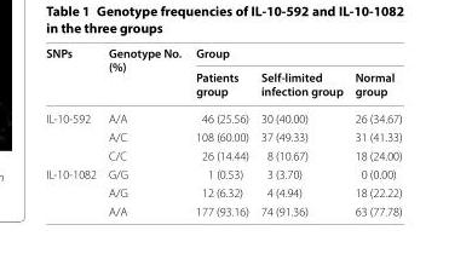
<table><thead><tr><td rowspan="2">SNPs</td><td rowspan="2">Genotype No. (%)</td><td colspan="3">Group</td></tr><tr><td>Patients group</td><td>Self‑limited infection group</td><td>Normal group</td></tr></thead><tbody><tr><td rowspan="3">IL-10-592</td><td>A/A</td><td>46 (25.56)</td><td>30 (40.00)</td><td>26 (34.67)</td></tr><tr><td>A/C</td><td>108 (60.00)</td><td>37 (49.33)</td><td>31 (41.33)</td></tr><tr><td>C/C</td><td>26 (14.44)</td><td>8 (10.67)</td><td>18 (24.00)</td></tr><tr><td rowspan="3">IL-10-1082</td><td>G/G</td><td>1 (0.53)</td><td>3 (3.70)</td><td>0 (0.00)</td></tr><tr><td>A/G</td><td>12 (6.32)</td><td>4 (4.94)</td><td>18 (22.22)</td></tr><tr><td>A/A</td><td>177 (93.16)</td><td>74 (91.36)</td><td>63 (77.78)</td></tr></tbody></table>